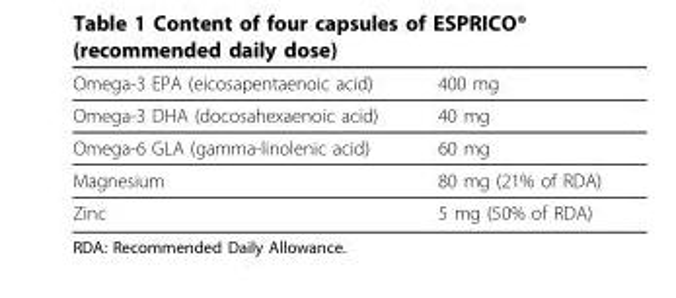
<table><thead><tr><td>Omega-3 EPA (eicosapentaenoic acid)</td><td>400 mg</td></tr></thead><tbody><tr><td>Omega-3 DHA (docosahexaenoic acid)</td><td>40 mg</td></tr><tr><td>Omega-6 GLA (gamma-linolenic acid)</td><td>60 mg</td></tr><tr><td>Magnesium</td><td>80 mg (21% of RDA)</td></tr><tr><td>Zinc</td><td>5 mg (50% of RDA)</td></tr></tbody></table>